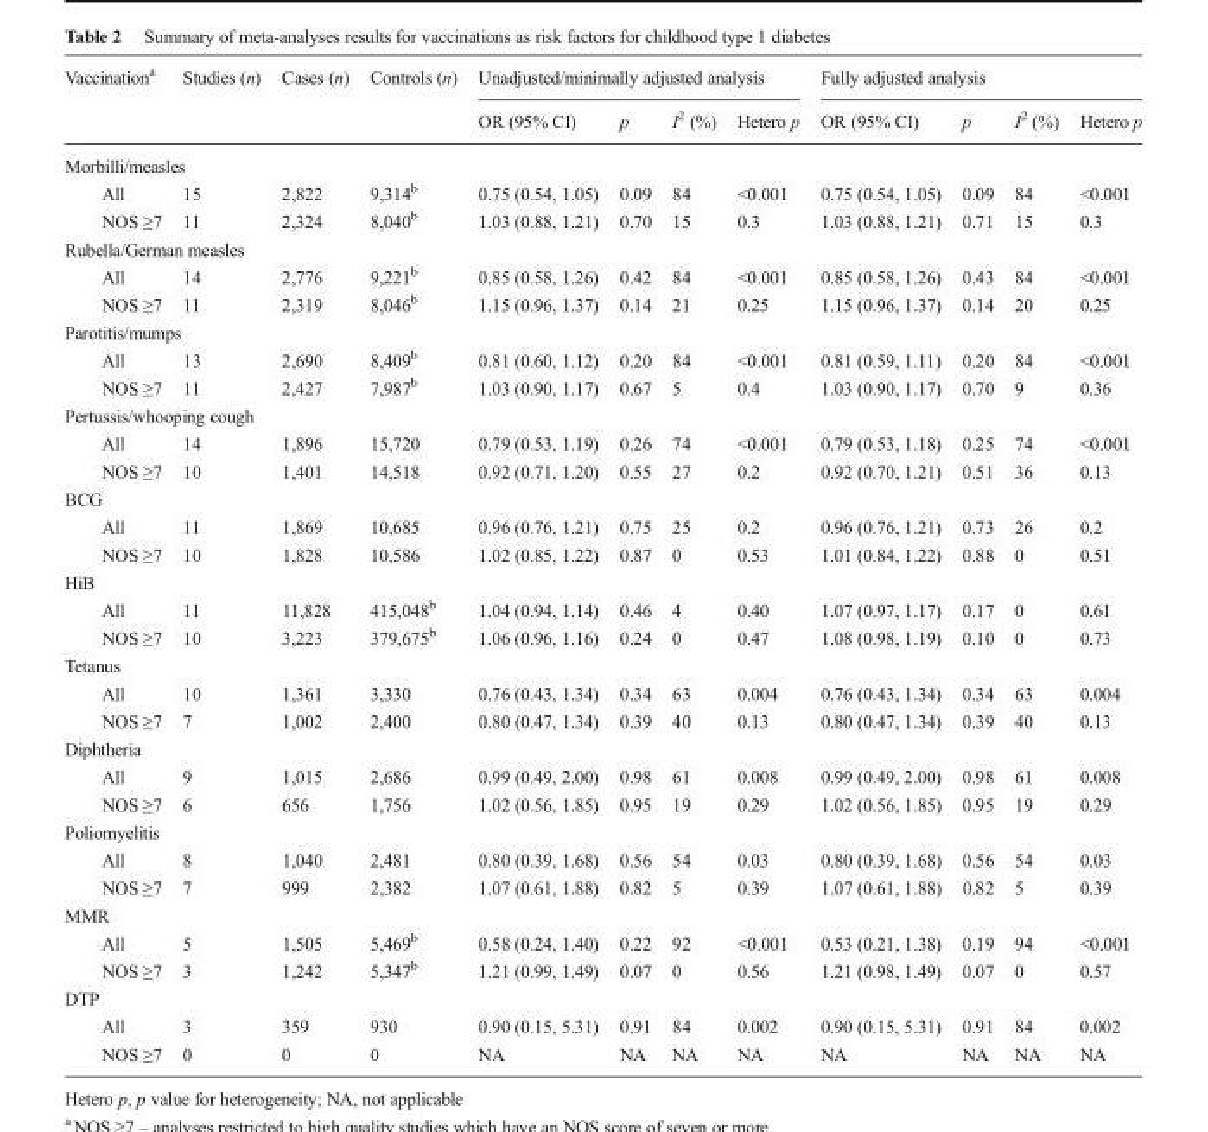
<table><thead><tr><td rowspan="2">Vaccination<sup>a</sup></td><td rowspan="2">Studies (n)</td><td rowspan="2">Cases (n)</td><td rowspan="2">Controls (n)</td><td colspan="4">Unadjusted/minimally adjusted analysis</td><td colspan="4">Fully adjusted analysis</td></tr><tr><td>OR (95% CI)</td><td>p</td><td>I<sup>2</sup> (%)</td><td>Hetero p</td><td>OR (95% CI)</td><td>p</td><td>I<sup>2</sup> (%)</td><td>Hetero p</td></tr></thead><tbody><tr><td colspan="12">Morbilli/measles</td></tr><tr><td>All</td><td>15</td><td>2,822</td><td>9,314<sup>b</sup></td><td>0.75 (0.54, 1.05)</td><td>0.09</td><td>84</td><td>&lt;0.001</td><td>0.75 (0.54, 1.05)</td><td>0.09</td><td>84</td><td>&lt;0.001</td></tr><tr><td>NOS ≥7</td><td>11</td><td>2,324</td><td>8,040<sup>b</sup></td><td>1.03 (0.88, 1.21)</td><td>0.70</td><td>15</td><td>0.3</td><td>1.03 (0.88, 1.21)</td><td>0.71</td><td>15</td><td>0.3</td></tr><tr><td colspan="12">Rubella/German measles</td></tr><tr><td>All</td><td>14</td><td>2,776</td><td>9,221<sup>b</sup></td><td>0.85 (0.58, 1.26)</td><td>0.42</td><td>84</td><td>&lt;0.001</td><td>0.85 (0.58, 1.26)</td><td>0.43</td><td>84</td><td>&lt;0.001</td></tr><tr><td>NOS ≥7</td><td>11</td><td>2,319</td><td>8,046<sup>b</sup></td><td>1.15 (0.96, 1.37)</td><td>0.14</td><td>21</td><td>0.25</td><td>1.15 (0.96, 1.37)</td><td>0.14</td><td>20</td><td>0.25</td></tr><tr><td colspan="12">Parotitis/mumps</td></tr><tr><td>All</td><td>13</td><td>2,690</td><td>8,409<sup>b</sup></td><td>0.81 (0.60, 1.12)</td><td>0.20</td><td>84</td><td>&lt;0.001</td><td>0.81 (0.59, 1.11)</td><td>0.20</td><td>84</td><td>&lt;0.001</td></tr><tr><td>NOS ≥7</td><td>11</td><td>2,427</td><td>7,987<sup>b</sup></td><td>1.03 (0.90, 1.17)</td><td>0.67</td><td>5</td><td>0.4</td><td>1.03 (0.90, 1.17)</td><td>0.70</td><td>9</td><td>0.36</td></tr><tr><td colspan="12">Pertussis/whooping cough</td></tr><tr><td>All</td><td>14</td><td>1,896</td><td>15,720</td><td>0.79 (0.53, 1.19)</td><td>0.26</td><td>74</td><td>&lt;0.001</td><td>0.79 (0.53, 1.18)</td><td>0.25</td><td>74</td><td>&lt;0.001</td></tr><tr><td>NOS ≥7</td><td>10</td><td>1,401</td><td>14,518</td><td>0.92 (0.71, 1.20)</td><td>0.55</td><td>27</td><td>0.2</td><td>0.92 (0.70, 1.21)</td><td>0.51</td><td>36</td><td>0.13</td></tr><tr><td colspan="12">BCG</td></tr><tr><td>All</td><td>11</td><td>1,869</td><td>10,685</td><td>0.96 (0.76, 1.21)</td><td>0.75</td><td>25</td><td>0.2</td><td>0.96 (0.76, 1.21)</td><td>0.73</td><td>26</td><td>0.2</td></tr><tr><td>NOS ≥7</td><td>10</td><td>1,828</td><td>10,586</td><td>1.02 (0.85, 1.22)</td><td>0.87</td><td>0</td><td>0.53</td><td>1.01 (0.84, 1.22)</td><td>0.88</td><td>0</td><td>0.51</td></tr><tr><td colspan="12">HiB</td></tr><tr><td>All</td><td>11</td><td>11,828</td><td>415,048<sup>b</sup></td><td>1.04 (0.94, 1.14)</td><td>0.46</td><td>4</td><td>0.40</td><td>1.07 (0.97, 1.17)</td><td>0.17</td><td>0</td><td>0.61</td></tr><tr><td>NOS ≥7</td><td>10</td><td>3,223</td><td>379,675<sup>b</sup></td><td>1.06 (0.96, 1.16)</td><td>0.24</td><td>0</td><td>0.47</td><td>1.08 (0.98, 1.19)</td><td>0.10</td><td>0</td><td>0.73</td></tr><tr><td colspan="12">Tetanus</td></tr><tr><td>All</td><td>10</td><td>1,361</td><td>3,330</td><td>0.76 (0.43, 1.34)</td><td>0.34</td><td>63</td><td>0.004</td><td>0.76 (0.43, 1.34)</td><td>0.34</td><td>63</td><td>0.004</td></tr><tr><td>NOS ≥7</td><td>7</td><td>1,002</td><td>2,400</td><td>0.80 (0.47, 1.34)</td><td>0.39</td><td>40</td><td>0.13</td><td>0.80 (0.47, 1.34)</td><td>0.39</td><td>40</td><td>0.13</td></tr><tr><td colspan="12">Diphtheria</td></tr><tr><td>All</td><td>9</td><td>1,015</td><td>2,686</td><td>0.99 (0.49, 2.00)</td><td>0.98</td><td>61</td><td>0.008</td><td>0.99 (0.49, 2.00)</td><td>0.98</td><td>61</td><td>0.008</td></tr><tr><td>NOS ≥7</td><td>6</td><td>656</td><td>1,756</td><td>1.02 (0.56, 1.85)</td><td>0.95</td><td>19</td><td>0.29</td><td>1.02 (0.56, 1.85)</td><td>0.95</td><td>19</td><td>0.29</td></tr><tr><td colspan="12">Poliomyelitis</td></tr><tr><td>All</td><td>8</td><td>1,040</td><td>2,481</td><td>0.80 (0.39, 1.68)</td><td>0.56</td><td>54</td><td>0.03</td><td>0.80 (0.39, 1.68)</td><td>0.56</td><td>54</td><td>0.03</td></tr><tr><td>NOS ≥7</td><td>7</td><td>999</td><td>2,382</td><td>1.07 (0.61, 1.88)</td><td>0.82</td><td>5</td><td>0.39</td><td>1.07 (0.61, 1.88)</td><td>0.82</td><td>5</td><td>0.39</td></tr><tr><td colspan="12">MMR</td></tr><tr><td>All</td><td>5</td><td>1,505</td><td>5,469<sup>b</sup></td><td>0.58 (0.24, 1.40)</td><td>0.22</td><td>92</td><td>&lt;0.001</td><td>0.53 (0.21, 1.38)</td><td>0.19</td><td>94</td><td>&lt;0.001</td></tr><tr><td>NOS ≥7</td><td>3</td><td>1,242</td><td>5,347<sup>b</sup></td><td>1.21 (0.99, 1.49)</td><td>0.07</td><td>0</td><td>0.56</td><td>1.21 (0.98, 1.49)</td><td>0.07</td><td>0</td><td>0.57</td></tr><tr><td colspan="12">DTP</td></tr><tr><td>All</td><td>3</td><td>359</td><td>930</td><td>0.90 (0.15, 5.31)</td><td>0.91</td><td>84</td><td>0.002</td><td>0.90 (0.15, 5.31)</td><td>0.91</td><td>84</td><td>0.002</td></tr><tr><td>NOS ≥7</td><td>0</td><td>0</td><td>0</td><td>NA</td><td>NA</td><td>NA</td><td>NA</td><td>NA</td><td>NA</td><td>NA</td><td>NA</td></tr></tbody></table>